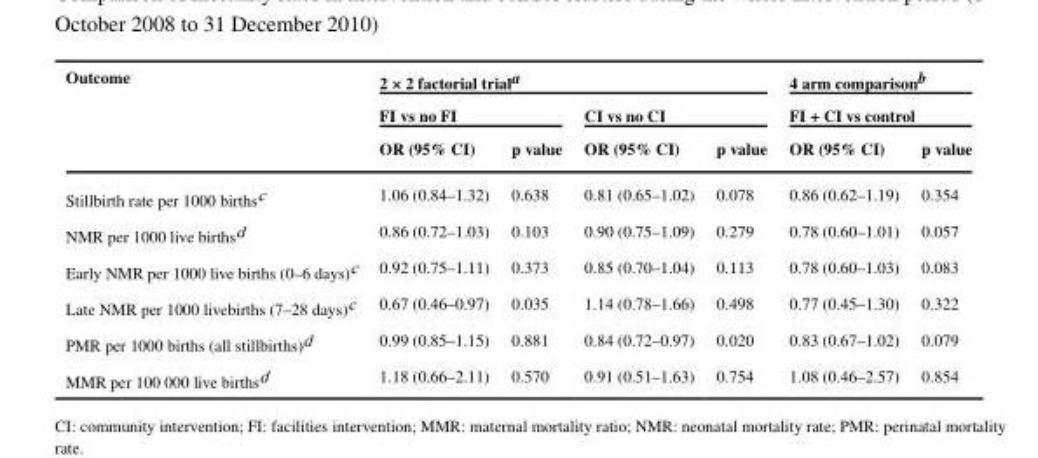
<table><thead><tr><td rowspan="3">Outcome</td><td colspan="4">2 × 2 factorial trial<sup>a</sup></td><td rowspan="2" colspan="2">4 arm comparison<sup>b</sup> FI + CI vs control</td></tr><tr><td colspan="2">FI vs no FI</td><td colspan="2">CI vs no CI</td></tr><tr><td>OR (95% CI)</td><td>p value</td><td>OR (95% CI)</td><td>p value</td><td>OR (95% CI)</td><td>p value</td></tr></thead><tbody><tr><td>Stillbirth rate per 1000 births<sup>c</sup></td><td>1.06 (0.84–1.32)</td><td>0.638</td><td>0.81 (0.65–1.02)</td><td>0.078</td><td>0.86 (0.62–1.19)</td><td>0.354</td></tr><tr><td>NMR per 1000 live births<sup>d</sup></td><td>0.86 (0.72–1.03)</td><td>0.103</td><td>0.90 (0.75–1.09)</td><td>0.279</td><td>0.78 (0.60–1.01)</td><td>0.057</td></tr><tr><td>Early NMR per 1000 live births (0–6 days)<sup>c</sup></td><td>0.92 (0.75–1.11)</td><td>0.373</td><td>0.85 (0.70–1.04)</td><td>0.113</td><td>0.78 (0.60–1.03)</td><td>0.083</td></tr><tr><td>Late NMR per 1000 livebirths (7–28 days)<sup>c</sup></td><td>0.67 (0.46–0.97)</td><td>0.035</td><td>1.14 (0.78–1.66)</td><td>0.498</td><td>0.77 (0.45–1.30)</td><td>0.322</td></tr><tr><td>PMR per 1000 births (all stillbirths)<sup>d</sup></td><td>0.99 (0.85–1.15)</td><td>0.881</td><td>0.84 (0.72–0.97)</td><td>0.020</td><td>0.83 (0.67–1.02)</td><td>0.079</td></tr><tr><td>MMR per 100 000 live births<sup>d</sup></td><td>1.18 (0.66–2.11)</td><td>0.570</td><td>0.91 (0.51–1.63)</td><td>0.754</td><td>1.08 (0.46–2.57)</td><td>0.854</td></tr></tbody></table>